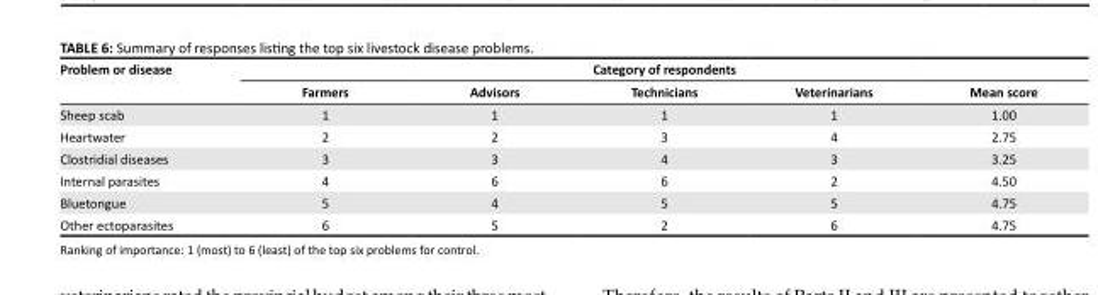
<table><thead><tr><td rowspan="2">Problem or disease</td><td colspan="5">Category of respondents</td></tr><tr><td>Farmers</td><td>Advisors</td><td>Technicians</td><td>Veterinarians</td><td>Mean score</td></tr></thead><tbody><tr><td>Sheep scab</td><td>1</td><td>1</td><td>1</td><td>1</td><td>1.00</td></tr><tr><td>Heartwater</td><td>2</td><td>2</td><td>3</td><td>4</td><td>2.75</td></tr><tr><td>Clostridial diseases</td><td>3</td><td>3</td><td>4</td><td>3</td><td>3.25</td></tr><tr><td>Internal parasites</td><td>4</td><td>6</td><td>6</td><td>2</td><td>4.50</td></tr><tr><td>Bluetongue</td><td>5</td><td>4</td><td>5</td><td>5</td><td>4.75</td></tr><tr><td>Other ectoparasites</td><td>6</td><td>5</td><td>2</td><td>6</td><td>4.75</td></tr></tbody></table>